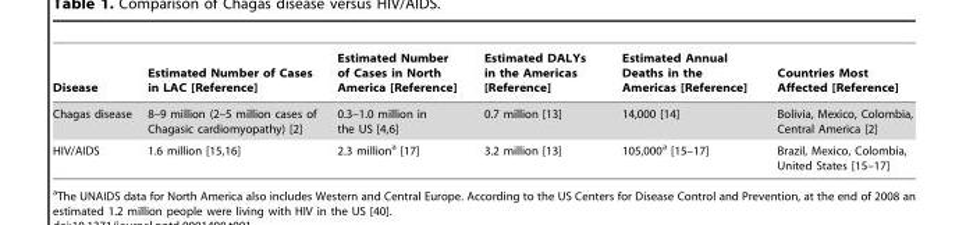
<table><thead><tr><td>Disease</td><td>Estimated Number of Cases in LAC [Reference]</td><td>Estimated Number of Cases in North America [Reference]</td><td>Estimated DALYs in the Americas [Reference]</td><td>Estimated Annual Deaths in the Americas [Reference]</td><td>Countries Most Affected [Reference]</td></tr></thead><tbody><tr><td>Chagas disease</td><td>8–9 million (2–5 million cases of Chagasic cardiomyopathy) [2]</td><td>0.3–1.0 million in the US [4,6]</td><td>0.7 million [13]</td><td>14,000 [14]</td><td>Bolivia, Mexico, Colombia, Central America [2]</td></tr><tr><td>HIV/AIDS</td><td>1.6 million [15,16]</td><td>2.3 million<sup>a</sup> [17]</td><td>3.2 million [13]</td><td>105,000a [15–17]</td><td>Brazil, Mexico, Colombia, United States [15–17]</td></tr></tbody></table>